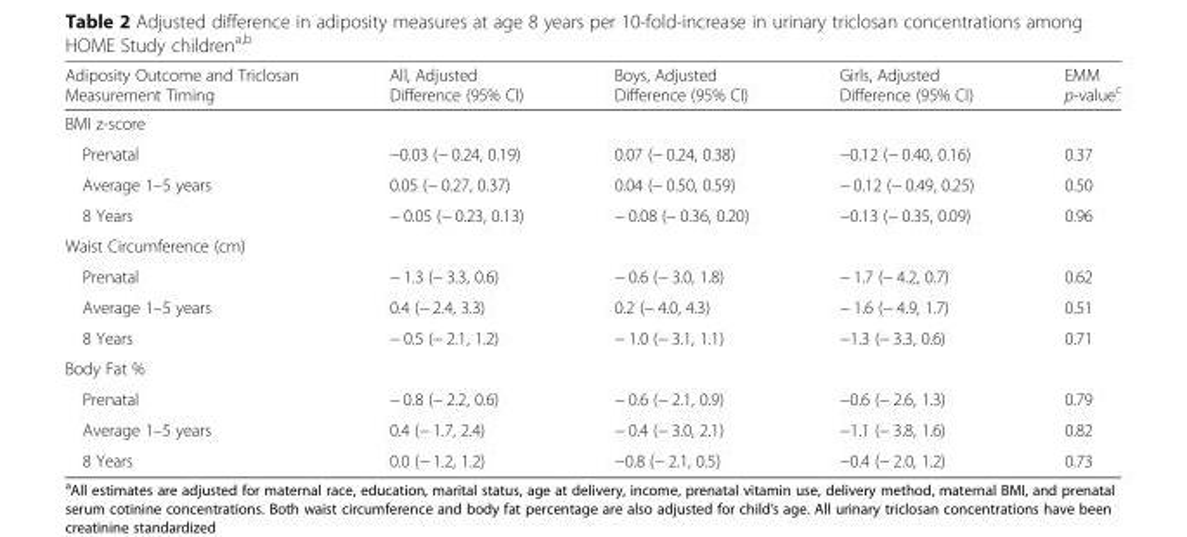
<table><thead><tr><td>Adiposity Outcome and Triclosan Measurement Timing</td><td>All, Adjusted Difference (95% CI)</td><td>Boys, Adjusted Difference (95% CI)</td><td>Girls, Adjusted Difference (95% CI)</td><td>EMM p-value<sup>c</sup></td></tr></thead><tbody><tr><td colspan="5">BMI z-score</td></tr><tr><td>Prenatal</td><td>−0.03 (− 0.24, 0.19)</td><td>0.07 (− 0.24, 0.38)</td><td>−0.12 (− 0.40, 0.16)</td><td>0.37</td></tr><tr><td>Average 1–5 years</td><td>0.05 (− 0.27, 0.37)</td><td>0.04 (− 0.50, 0.59)</td><td>− 0.12 (− 0.49, 0.25)</td><td>0.50</td></tr><tr><td>8 Years</td><td>− 0.05 (− 0.23, 0.13)</td><td>− 0.08 (− 0.36, 0.20)</td><td>−0.13 (− 0.35, 0.09)</td><td>0.96</td></tr><tr><td colspan="5">Waist Circumference (cm)</td></tr><tr><td>Prenatal</td><td>− 1.3 (− 3.3, 0.6)</td><td>− 0.6 (− 3.0, 1.8)</td><td>− 1.7 (− 4.2, 0.7)</td><td>0.62</td></tr><tr><td>Average 1–5 years</td><td>0.4 (− 2.4, 3.3)</td><td>0.2 (− 4.0, 4.3)</td><td>− 1.6 (− 4.9, 1.7)</td><td>0.51</td></tr><tr><td>8 Years</td><td>− 0.5 (− 2.1, 1.2)</td><td>− 1.0 (− 3.1, 1.1)</td><td>−1.3 (− 3.3, 0.6)</td><td>0.71</td></tr><tr><td colspan="5">Body Fat %</td></tr><tr><td>Prenatal</td><td>− 0.8 (− 2.2, 0.6)</td><td>− 0.6 (− 2.1, 0.9)</td><td>−0.6 (− 2.6, 1.3)</td><td>0.79</td></tr><tr><td>Average 1–5 years</td><td>0.4 (− 1.7, 2.4)</td><td>− 0.4 (− 3.0, 2.1)</td><td>−1.1 (− 3.8, 1.6)</td><td>0.82</td></tr><tr><td>8 Years</td><td>0.0 (− 1.2, 1.2)</td><td>−0.8 (− 2.1, 0.5)</td><td>−0.4 (− 2.0, 1.2)</td><td>0.73</td></tr></tbody></table>